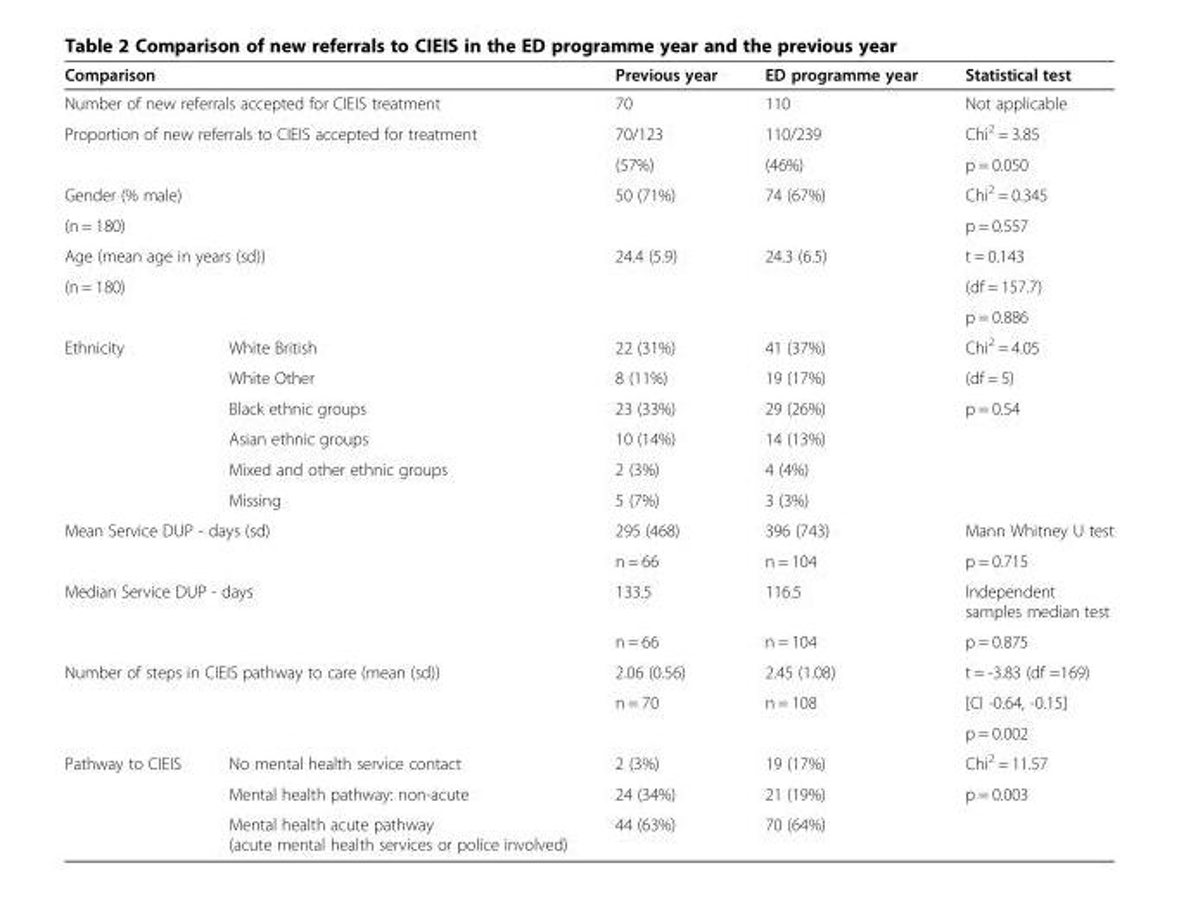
<table><thead><tr><td colspan="2">Comparison</td><td>Previous year</td><td>ED programme year</td><td>Statistical test</td></tr></thead><tbody><tr><td colspan="2">Number of new referrals accepted for CIEIS treatment</td><td>70</td><td>110</td><td>Not applicable</td></tr><tr><td rowspan="2" colspan="2">Proportion of new referrals to CIEIS accepted for treatment</td><td>70/123</td><td>110/239</td><td>Chi<sup>2</sup> = 3.85</td></tr><tr><td>(57%)</td><td>(46%)</td><td>p = 0.050</td></tr><tr><td colspan="2">Gender (% male)</td><td>50 (71%)</td><td>74 (67%)</td><td>Chi<sup>2</sup> = 0.345</td></tr><tr><td colspan="2">(n = 180)</td><td></td><td></td><td>p = 0.557</td></tr><tr><td colspan="2">Age (mean age in years (sd))</td><td>24.4 (5.9)</td><td>24.3 (6.5)</td><td>t = 0.143</td></tr><tr><td rowspan="2" colspan="2">(n = 180)</td><td rowspan="2"></td><td rowspan="2"></td><td>(df = 157.7)</td></tr><tr><td>p = 0.886</td></tr><tr><td rowspan="6">Ethnicity</td><td>White British</td><td>22 (31%)</td><td>41 (37%)</td><td>Chi<sup>2</sup> = 4.05</td></tr><tr><td>White Other</td><td>8 (11%)</td><td>19 (17%)</td><td>(df = 5)</td></tr><tr><td>Black ethnic groups</td><td>23 (33%)</td><td>29 (26%)</td><td rowspan="4">p = 0.54</td></tr><tr><td>Asian ethnic groups</td><td>10 (14%)</td><td>14 (13%)</td></tr><tr><td>Mixed and other ethnic groups</td><td>2 (3%)</td><td>4 (4%)</td></tr><tr><td>Missing</td><td>5 (7%)</td><td>3 (3%)</td></tr><tr><td rowspan="2" colspan="2">Mean Service DUP - days (sd)</td><td>295 (468)</td><td>396 (743)</td><td>Mann Whitney U test</td></tr><tr><td>n = 66</td><td>n = 104</td><td>p = 0.715</td></tr><tr><td rowspan="2" colspan="2">Median Service DUP - days</td><td>133.5</td><td>116.5</td><td>Independent samples median test</td></tr><tr><td>n = 66</td><td>n = 104</td><td>p = 0.875</td></tr><tr><td rowspan="3" colspan="2">Number of steps in CIEIS pathway to care (mean (sd))</td><td>2.06 (0.56)</td><td>2.45 (1.08)</td><td>t = -3.83 (df =169)</td></tr><tr><td rowspan="2">n = 70</td><td rowspan="2">n = 108</td><td>[CI -0.64, -0.15]</td></tr><tr><td>p = 0.002</td></tr><tr><td rowspan="3">Pathway to CIEIS</td><td>No mental health service contact</td><td>2 (3%)</td><td>19 (17%)</td><td>Chi<sup>2</sup> = 11.57</td></tr><tr><td>Mental health pathway: non-acute</td><td>24 (34%)</td><td>21 (19%)</td><td rowspan="2">p = 0.003</td></tr><tr><td>Mental health acute pathway (acute mental health services or police involved)</td><td>44 (63%)</td><td>70 (64%)</td></tr></tbody></table>